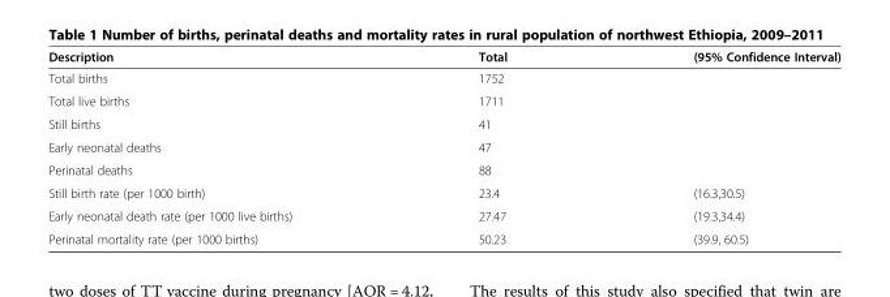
<table><thead><tr><td>Description</td><td>Total</td><td>(95% Confidence Interval)</td></tr></thead><tbody><tr><td>Total births</td><td>1752</td><td></td></tr><tr><td>Total live births</td><td>1711</td><td></td></tr><tr><td>Still births</td><td>41</td><td></td></tr><tr><td>Early neonatal deaths</td><td>47</td><td></td></tr><tr><td>Perinatal deaths</td><td>88</td><td></td></tr><tr><td>Still birth rate (per 1000 birth)</td><td>23.4</td><td>(16.3,30.5)</td></tr><tr><td>Early neonatal death rate (per 1000 live births)</td><td>27.47</td><td>(19.3,34.4)</td></tr><tr><td>Perinatal mortality rate (per 1000 births)</td><td>50.23</td><td>(39.9, 60.5)</td></tr></tbody></table>